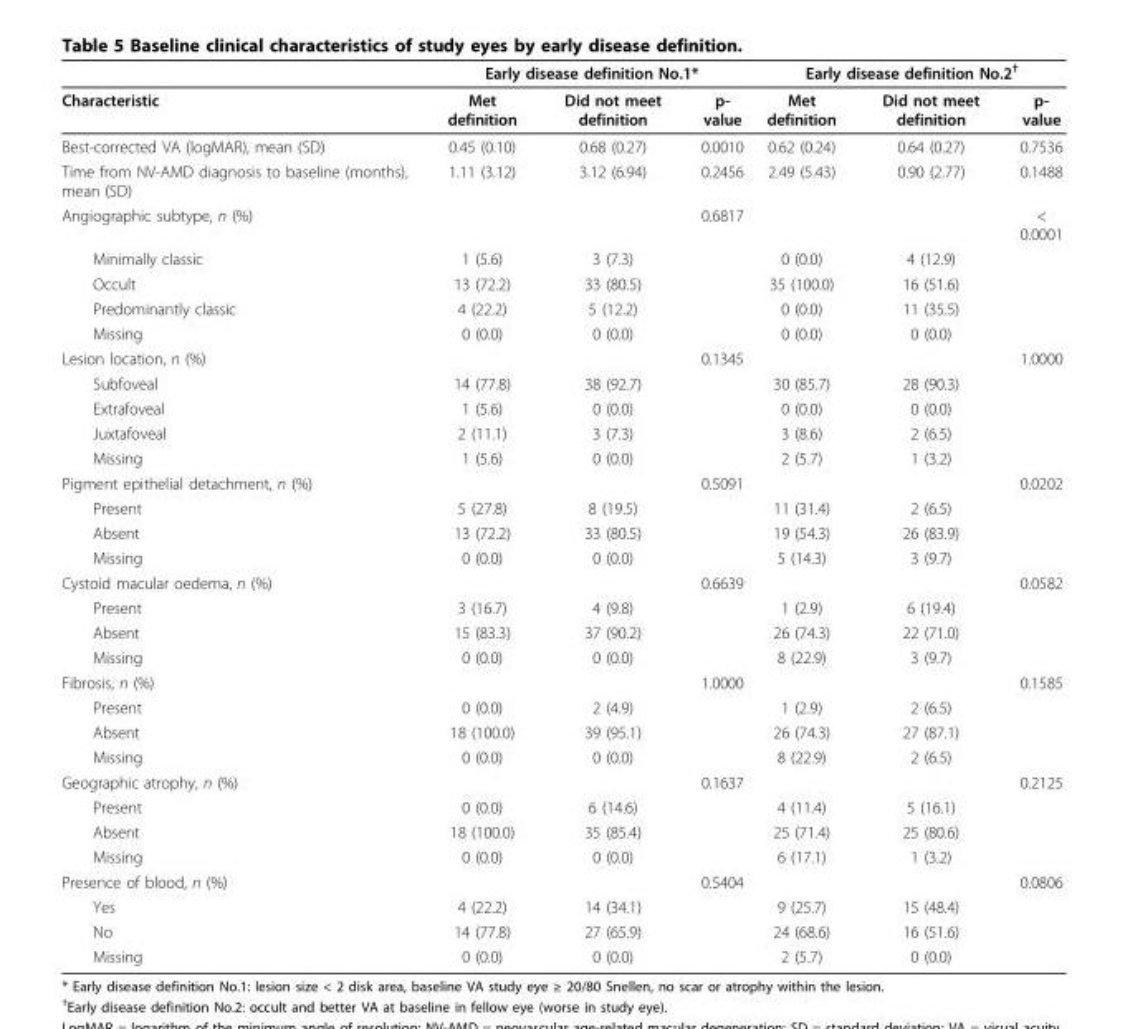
<table><thead><tr><td rowspan="2">Characteristic</td><td colspan="3">Early disease definition No.1*</td><td colspan="3">Early disease definition No.2<sup>†</sup></td></tr><tr><td>Met definition</td><td>Did not meet definition</td><td>p- value</td><td>Met definition</td><td>Did not meet definition</td><td>p- value</td></tr></thead><tbody><tr><td>Best-corrected VA (logMAR), mean (SD)</td><td>0.45 (0.10)</td><td>0.68 (0.27)</td><td>0.0010</td><td>0.62 (0.24)</td><td>0.64 (0.27)</td><td>0.7536</td></tr><tr><td>Time from NV-AMD diagnosis to baseline (months), mean (SD)</td><td>1.11 (3.12)</td><td>3.12 (6.94)</td><td>0.2456</td><td>2.49 (5.43)</td><td>0.90 (2.77)</td><td>0.1488</td></tr><tr><td>Angiographic subtype, n (%)</td><td></td><td></td><td>0.6817</td><td></td><td></td><td>&lt; 0.0001</td></tr><tr><td>Minimally classic</td><td>1 (5.6)</td><td>3 (7.3)</td><td></td><td>0 (0.0)</td><td>4 (12.9)</td><td></td></tr><tr><td>Occult</td><td>13 (72.2)</td><td>33 (80.5)</td><td></td><td>35 (100.0)</td><td>16 (51.6)</td><td></td></tr><tr><td>Predominantly classic</td><td>4 (22.2)</td><td>5 (12.2)</td><td></td><td>0 (0.0)</td><td>11 (35.5)</td><td></td></tr><tr><td>Missing</td><td>0 (0.0)</td><td>0 (0.0)</td><td></td><td>0 (0.0)</td><td>0 (0.0)</td><td></td></tr><tr><td>Lesion location, n (%)</td><td></td><td></td><td>0.1345</td><td></td><td></td><td>1.0000</td></tr><tr><td>Subfoveal</td><td>14 (77.8)</td><td>38 (92.7)</td><td></td><td>30 (85.7)</td><td>28 (90.3)</td><td></td></tr><tr><td>Extrafoveal</td><td>1 (5.6)</td><td>0 (0.0)</td><td></td><td>0 (0.0)</td><td>0 (0.0)</td><td></td></tr><tr><td>Juxtafoveal</td><td>2 (11.1)</td><td>3 (7.3)</td><td></td><td>3 (8.6)</td><td>2 (6.5)</td><td></td></tr><tr><td>Missing</td><td>1 (5.6)</td><td>0 (0.0)</td><td></td><td>2 (5.7)</td><td>1 (3.2)</td><td></td></tr><tr><td>Pigment epithelial detachment, n (%)</td><td></td><td></td><td>0.5091</td><td></td><td></td><td>0.0202</td></tr><tr><td>Present</td><td>5 (27.8)</td><td>8 (19.5)</td><td></td><td>11 (31.4)</td><td>2 (6.5)</td><td></td></tr><tr><td>Absent</td><td>13 (72.2)</td><td>33 (80.5)</td><td></td><td>19 (54.3)</td><td>26 (83.9)</td><td></td></tr><tr><td>Missing</td><td>0 (0.0)</td><td>0 (0.0)</td><td></td><td>5 (14.3)</td><td>3 (9.7)</td><td></td></tr><tr><td>Cystoid macular oedema, n (%)</td><td></td><td></td><td>0.6639</td><td></td><td></td><td>0.0582</td></tr><tr><td>Present</td><td>3 (16.7)</td><td>4 (9.8)</td><td></td><td>1 (2.9)</td><td>6 (19.4)</td><td></td></tr><tr><td>Absent</td><td>15 (83.3)</td><td>37 (90.2)</td><td></td><td>26 (74.3)</td><td>22 (71.0)</td><td></td></tr><tr><td>Missing</td><td>0 (0.0)</td><td>0 (0.0)</td><td></td><td>8 (22.9)</td><td>3 (9.7)</td><td></td></tr><tr><td>Fibrosis, n (%)</td><td></td><td></td><td>1.0000</td><td></td><td></td><td>0.1585</td></tr><tr><td>Present</td><td>0 (0.0)</td><td>2 (4.9)</td><td></td><td>1 (2.9)</td><td>2 (6.5)</td><td></td></tr><tr><td>Absent</td><td>18 (100.0)</td><td>39 (95.1)</td><td></td><td>26 (74.3)</td><td>27 (87.1)</td><td></td></tr><tr><td>Missing</td><td>0 (0.0)</td><td>0 (0.0)</td><td></td><td>8 (22.9)</td><td>2 (6.5)</td><td></td></tr><tr><td>Geographic atrophy, n (%)</td><td></td><td></td><td>0.1637</td><td></td><td></td><td>0.2125</td></tr><tr><td>Present</td><td>0 (0.0)</td><td>6 (14.6)</td><td></td><td>4 (11.4)</td><td>5 (16.1)</td><td></td></tr><tr><td>Absent</td><td>18 (100.0)</td><td>35 (85.4)</td><td></td><td>25 (71.4)</td><td>25 (80.6)</td><td></td></tr><tr><td>Missing</td><td>0 (0.0)</td><td>0 (0.0)</td><td></td><td>6 (17.1)</td><td>1 (3.2)</td><td></td></tr><tr><td>Presence of blood, n (%)</td><td></td><td></td><td>0.5404</td><td></td><td></td><td>0.0806</td></tr><tr><td>Yes</td><td>4 (22.2)</td><td>14 (34.1)</td><td></td><td>9 (25.7)</td><td>15 (48.4)</td><td></td></tr><tr><td>No</td><td>14 (77.8)</td><td>27 (65.9)</td><td></td><td>24 (68.6)</td><td>16 (51.6)</td><td></td></tr><tr><td>Missing</td><td>0 (0.0)</td><td>0 (0.0)</td><td></td><td>2 (5.7)</td><td>0 (0.0)</td><td></td></tr></tbody></table>